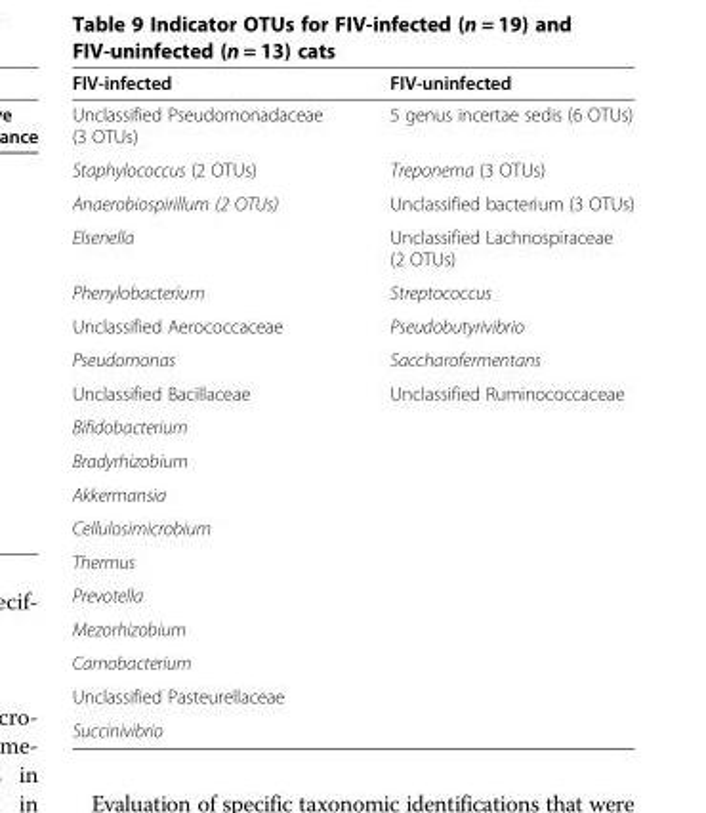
<table><thead><tr><td>FIV-infected</td><td>FIV-uninfected</td></tr></thead><tbody><tr><td>Unclassified Pseudomonadaceae (3 OTUs)</td><td>5 genus incertae sedis (6 OTUs)</td></tr><tr><td>Staphylococcus (2 OTUs)</td><td>Treponema (3 OTUs)</td></tr><tr><td>Anaerobiospirillum (2 OTUs)</td><td>Unclassified bacterium (3 OTUs)</td></tr><tr><td>Elsenella</td><td>Unclassified Lachnospiraceae (2 OTUs)</td></tr><tr><td>Phenylobacterium</td><td>Streptococcus</td></tr><tr><td>Unclassified Aerococcaceae</td><td>Pseudobutyrivibrio</td></tr><tr><td>Pseudomonas</td><td>Saccharofermentans</td></tr><tr><td>Unclassified Bacillaceae</td><td>Unclassified Ruminococcaceae</td></tr><tr><td colspan="2">Bifidobacterium</td></tr><tr><td colspan="2">Bradyrhizobium</td></tr><tr><td colspan="2">Akkermansia</td></tr><tr><td colspan="2">Cellulosimicrobium</td></tr><tr><td colspan="2">Thermus</td></tr><tr><td colspan="2">Prevotella</td></tr><tr><td colspan="2">Mezorhizobium</td></tr><tr><td colspan="2">Carnobacterium</td></tr><tr><td colspan="2">Unclassified Pasteurellaceae</td></tr><tr><td>Succinivibrio</td><td></td></tr></tbody></table>